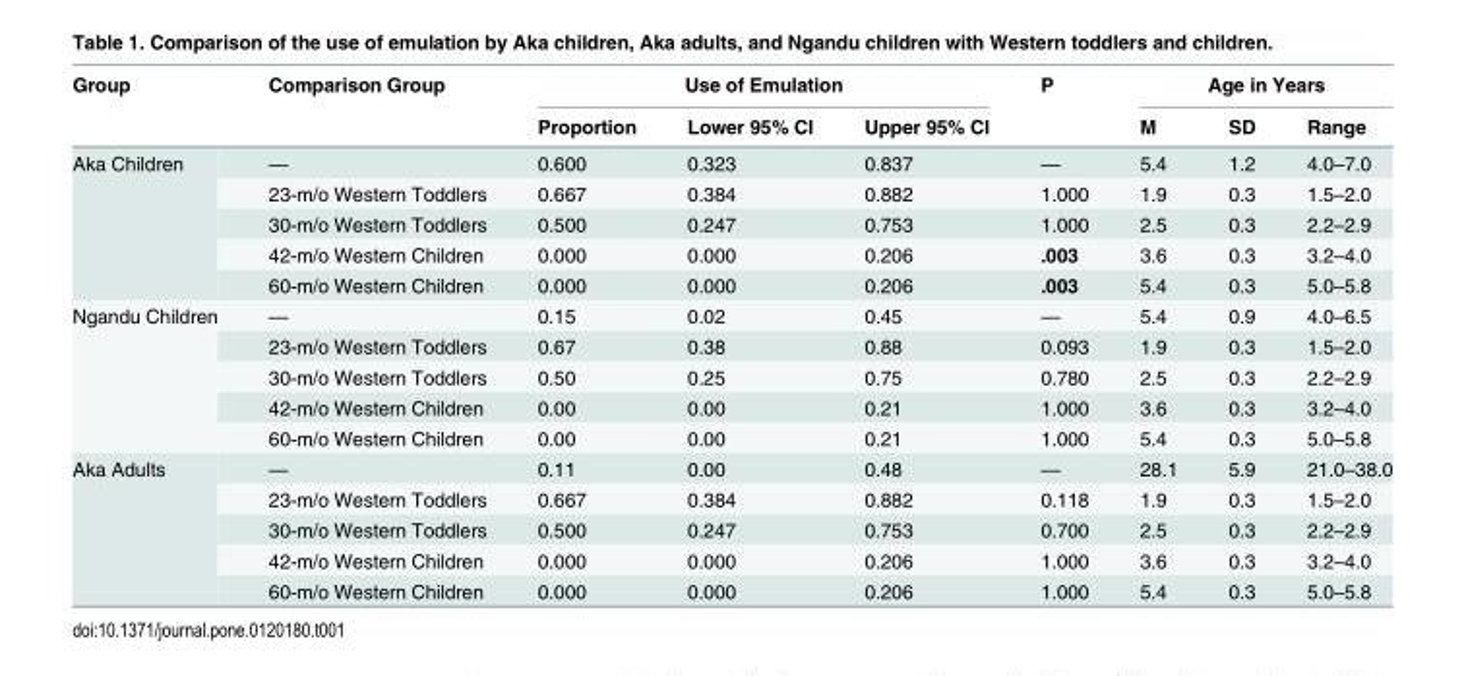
<table><thead><tr><td rowspan="2">Group</td><td rowspan="2">Comparison Group</td><td colspan="3">Use of Emulation</td><td rowspan="2">P</td><td colspan="3">Age in Years</td></tr><tr><td>Proportion</td><td>Lower 95% CI</td><td>Upper 95% CI</td><td>M</td><td>SD</td><td>Range</td></tr></thead><tbody><tr><td rowspan="5">Aka Children</td><td>—</td><td>0.600</td><td>0.323</td><td>0.837</td><td>—</td><td>5.4</td><td>1.2</td><td>4.0–7.0</td></tr><tr><td>23-m/o Western Toddlers</td><td>0.667</td><td>0.384</td><td>0.882</td><td>1.000</td><td>1.9</td><td>0.3</td><td>1.5–2.0</td></tr><tr><td>30-m/o Western Toddlers</td><td>0.500</td><td>0.247</td><td>0.753</td><td>1.000</td><td>2.5</td><td>0.3</td><td>2.2–2.9</td></tr><tr><td>42-m/o Western Children</td><td>0.000</td><td>0.000</td><td>0.206</td><td>.003</td><td>3.6</td><td>0.3</td><td>3.2–4.0</td></tr><tr><td>60-m/o Western Children</td><td>0.000</td><td>0.000</td><td>0.206</td><td>.003</td><td>5.4</td><td>0.3</td><td>5.0–5.8</td></tr><tr><td rowspan="5">Ngandu Children</td><td>—</td><td>0.15</td><td>0.02</td><td>0.45</td><td>—</td><td>5.4</td><td>0.9</td><td>4.0–6.5</td></tr><tr><td>23-m/o Western Toddlers</td><td>0.67</td><td>0.38</td><td>0.88</td><td>0.093</td><td>1.9</td><td>0.3</td><td>1.5–2.0</td></tr><tr><td>30-m/o Western Toddlers</td><td>0.50</td><td>0.25</td><td>0.75</td><td>0.780</td><td>2.5</td><td>0.3</td><td>2.2–2.9</td></tr><tr><td>42-m/o Western Children</td><td>0.00</td><td>0.00</td><td>0.21</td><td>1.000</td><td>3.6</td><td>0.3</td><td>3.2–4.0</td></tr><tr><td>60-m/o Western Children</td><td>0.00</td><td>0.00</td><td>0.21</td><td>1.000</td><td>5.4</td><td>0.3</td><td>5.0–5.8</td></tr><tr><td rowspan="5">Aka Adults</td><td>—</td><td>0.11</td><td>0.00</td><td>0.48</td><td>—</td><td>28.1</td><td>5.9</td><td>21.0–38.0</td></tr><tr><td>23-m/o Western Toddlers</td><td>0.667</td><td>0.384</td><td>0.882</td><td>0.118</td><td>1.9</td><td>0.3</td><td>1.5–2.0</td></tr><tr><td>30-m/o Western Toddlers</td><td>0.500</td><td>0.247</td><td>0.753</td><td>0.700</td><td>2.5</td><td>0.3</td><td>2.2–2.9</td></tr><tr><td>42-m/o Western Children</td><td>0.000</td><td>0.000</td><td>0.206</td><td>1.000</td><td>3.6</td><td>0.3</td><td>3.2–4.0</td></tr><tr><td>60-m/o Western Children</td><td>0.000</td><td>0.000</td><td>0.206</td><td>1.000</td><td>5.4</td><td>0.3</td><td>5.0–5.8</td></tr></tbody></table>